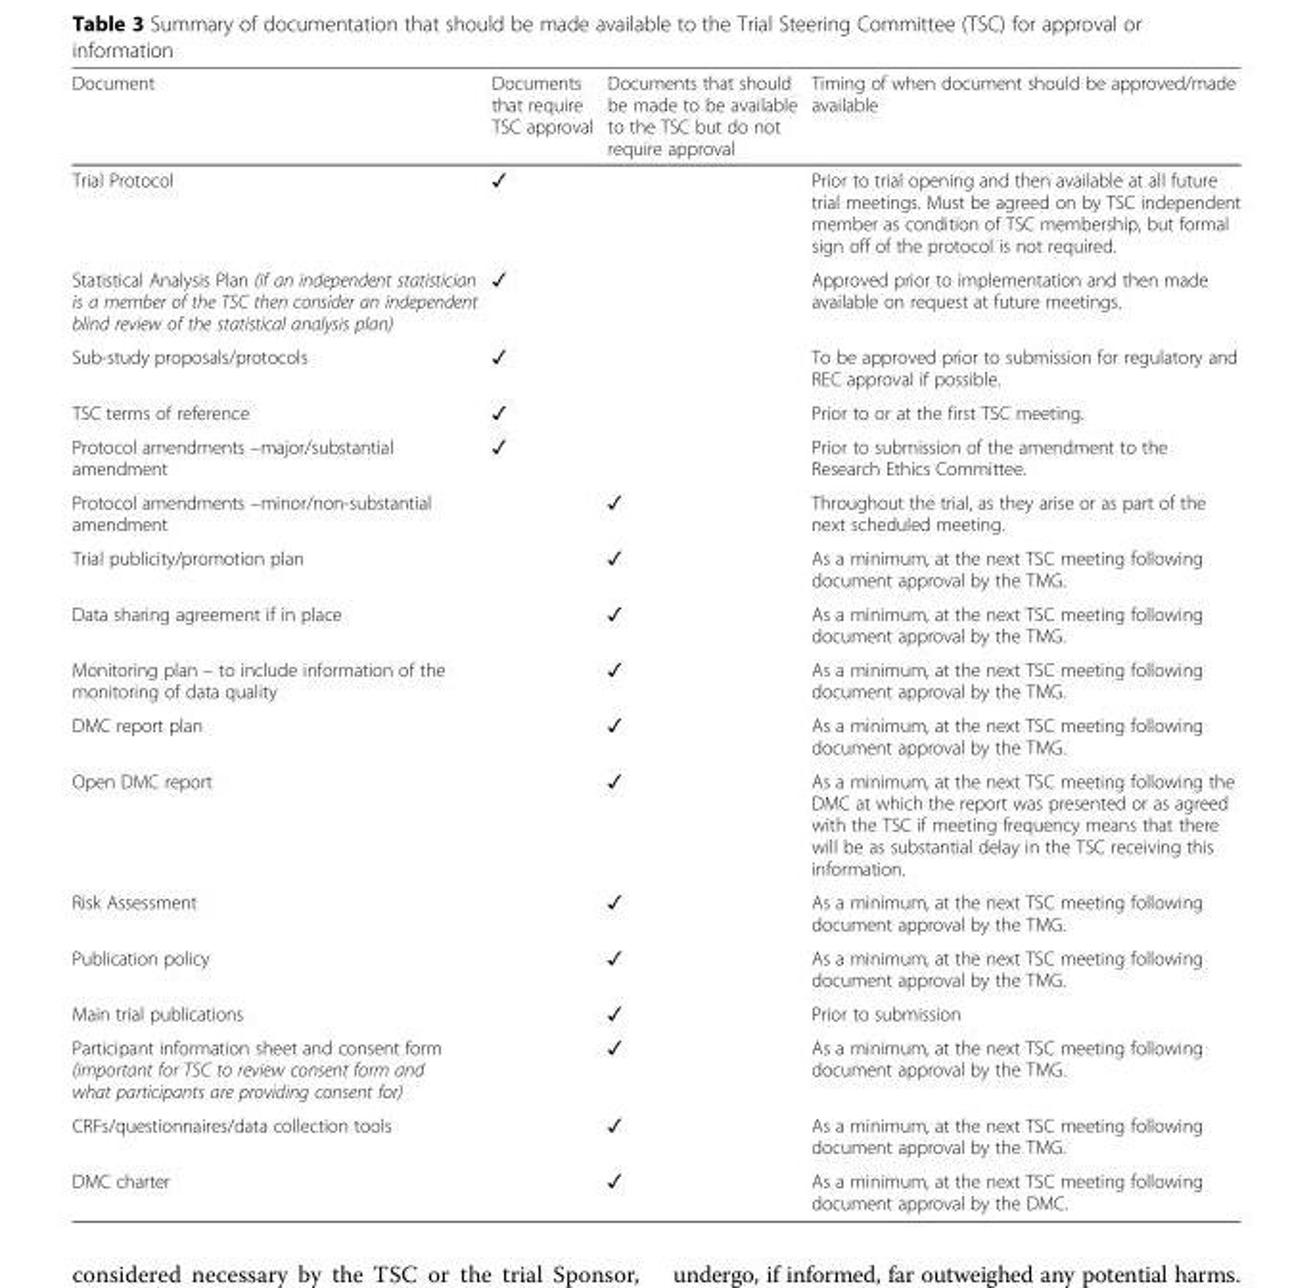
<table><thead><tr><td>Document</td><td>Documents that require TSC approval</td><td>Documents that should be made to be available to the TSC but do not require approval</td><td>Timing of when document should be approved/made available</td></tr></thead><tbody><tr><td>Trial Protocol</td><td>✓</td><td></td><td>Prior to trial opening and then available at all future trial meetings. Must be agreed on by TSC independent member as condition of TSC membership, but formal sign off of the protocol is not required.</td></tr><tr><td>Statistical Analysis Plan (if an independent statistician is a member of the TSC then consider an independent blind review of the statistical analysis plan)</td><td>✓</td><td></td><td>Approved prior to implementation and then made available on request at future meetings.</td></tr><tr><td>Sub-study proposals/protocols</td><td>✓</td><td></td><td>To be approved prior to submission for regulatory and REC approval if possible.</td></tr><tr><td>TSC terms of reference</td><td>✓</td><td></td><td>Prior to or at the first TSC meeting.</td></tr><tr><td>Protocol amendments –major/substantial amendment</td><td>✓</td><td></td><td>Prior to submission of the amendment to the Research Ethics Committee.</td></tr><tr><td>Protocol amendments –minor/non-substantial amendment</td><td></td><td>✓</td><td>Throughout the trial, as they arise or as part of the next scheduled meeting.</td></tr><tr><td>Trial publicity/promotion plan</td><td></td><td>✓</td><td>As a minimum, at the next TSC meeting following document approval by the TMG.</td></tr><tr><td>Data sharing agreement if in place</td><td></td><td>✓</td><td>As a minimum, at the next TSC meeting following document approval by the TMG.</td></tr><tr><td>Monitoring plan – to include information of the monitoring of data quality</td><td></td><td>✓</td><td>As a minimum, at the next TSC meeting following document approval by the TMG.</td></tr><tr><td>DMC report plan</td><td></td><td>✓</td><td>As a minimum, at the next TSC meeting following document approval by the TMG.</td></tr><tr><td>Open DMC report</td><td></td><td>✓</td><td>As a minimum, at the next TSC meeting following the DMC at which the report was presented or as agreed with the TSC if meeting frequency means that there will be as substantial delay in the TSC receiving this information.</td></tr><tr><td>Risk Assessment</td><td></td><td>✓</td><td>As a minimum, at the next TSC meeting following document approval by the TMG.</td></tr><tr><td>Publication policy</td><td></td><td>✓</td><td>As a minimum, at the next TSC meeting following document approval by the TMG.</td></tr><tr><td>Main trial publications</td><td></td><td>✓</td><td>Prior to submission</td></tr><tr><td>Participant information sheet and consent form (important for TSC to review consent form and what participants are providing consent for)</td><td></td><td>✓</td><td>As a minimum, at the next TSC meeting following document approval by the TMG.</td></tr><tr><td>CRFs/questionnaires/data collection tools</td><td></td><td>✓</td><td>As a minimum, at the next TSC meeting following document approval by the TMG.</td></tr><tr><td>DMC charter</td><td></td><td>✓</td><td>As a minimum, at the next TSC meeting following document approval by the DMC.</td></tr></tbody></table>